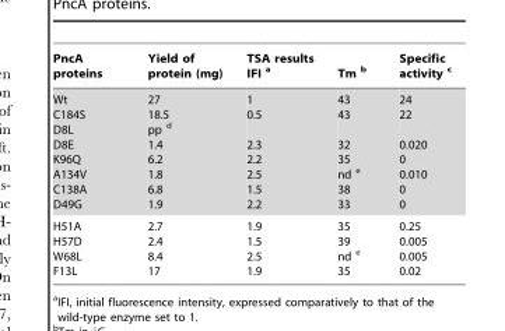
<table><thead><tr><td>PncA proteins</td><td>Yield of protein (mg)</td><td>TSA results IFI a</td><td>Tm b</td><td>Specific activity c</td></tr></thead><tbody><tr><td>Wt C184S D8L D8E K96Q A134V C138A D49G</td><td>27 18.5 pp d 1.4 6.2 1.8 6.8 1.9</td><td>1 0.5 2.3 2.2 2.5 1.5 2.2</td><td>43 43 32 35 nd e 38 33</td><td>24 22 0.020 0 0.010 0 0</td></tr><tr><td>H51A H57D W68L F13L</td><td>2.7 2.4 8.4 17</td><td>1.9 1.5 2.5 1.9</td><td>35 39 nd e 35</td><td>0.25 0.005 0.005 0.02</td></tr></tbody></table>